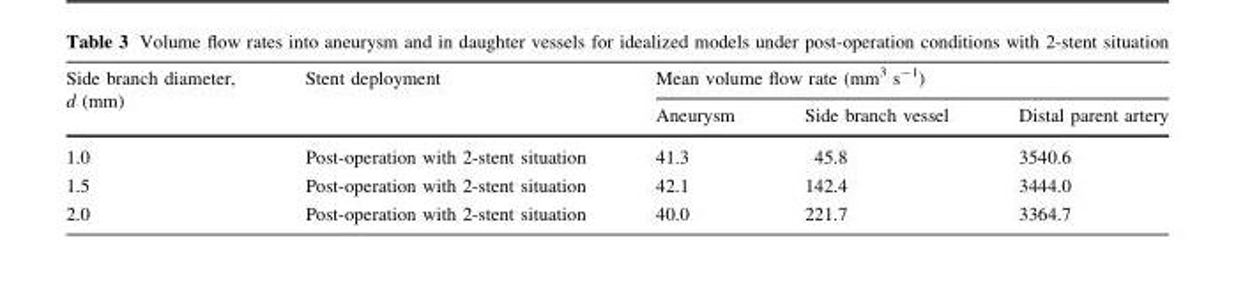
<table><thead><tr><td rowspan="2">Side branch diameter, d (mm)</td><td rowspan="2">Stent deployment</td><td colspan="3">Mean volume flow rate (mm<sup>3</sup> s<sup>-1</sup>)</td></tr><tr><td>Aneurysm</td><td>Side branch vessel</td><td>Distal parent artery</td></tr></thead><tbody><tr><td>1.0</td><td>Post-operation with 2-stent situation</td><td>41.3</td><td>45.8</td><td>3540.6</td></tr><tr><td>1.5</td><td>Post-operation with 2-stent situation</td><td>42.1</td><td>142.4</td><td>3444.0</td></tr><tr><td>2.0</td><td>Post-operation with 2-stent situation</td><td>40.0</td><td>221.7</td><td>3364.7</td></tr></tbody></table>